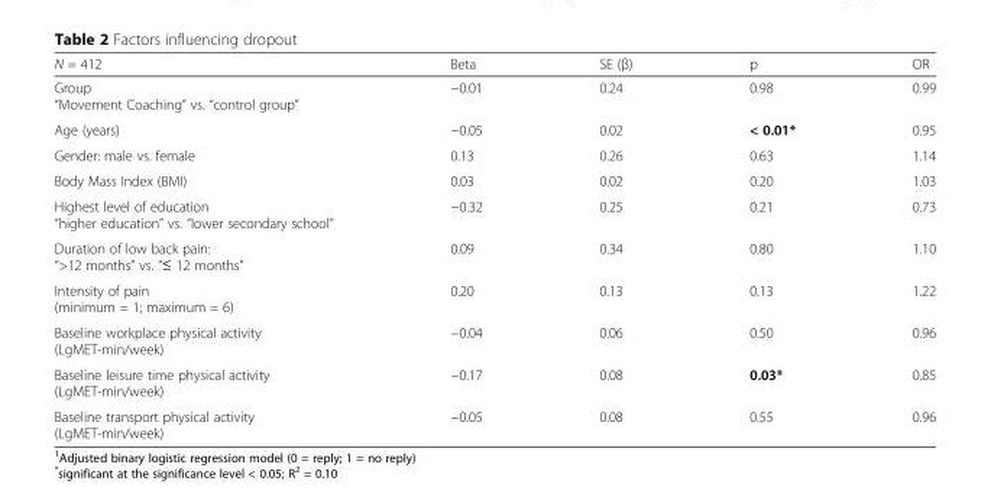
<table><thead><tr><td>N = 412</td><td>Beta</td><td>SE (β)</td><td>p</td><td>OR</td></tr></thead><tbody><tr><td>Group “Movement Coaching” vs. “control group”</td><td>−0.01</td><td>0.24</td><td>0.98</td><td>0.99</td></tr><tr><td>Age (years)</td><td>−0.05</td><td>0.02</td><td>&lt; 0.01*</td><td>0.95</td></tr><tr><td>Gender: male vs. female</td><td>0.13</td><td>0.26</td><td>0.63</td><td>1.14</td></tr><tr><td>Body Mass Index (BMI)</td><td>0.03</td><td>0.02</td><td>0.20</td><td>1.03</td></tr><tr><td>Highest level of education “higher education” vs. “lower secondary school”</td><td>−0.32</td><td>0.25</td><td>0.21</td><td>0.73</td></tr><tr><td>Duration of low back pain: “&gt;12 months” vs. “≤ 12 months”</td><td>0.09</td><td>0.34</td><td>0.80</td><td>1.10</td></tr><tr><td>Intensity of pain (minimum = 1; maximum = 6)</td><td>0.20</td><td>0.13</td><td>0.13</td><td>1.22</td></tr><tr><td>Baseline workplace physical activity (LgMET-min/week)</td><td>−0.04</td><td>0.06</td><td>0.50</td><td>0.96</td></tr><tr><td>Baseline leisure time physical activity (LgMET-min/week)</td><td>−0.17</td><td>0.08</td><td>0.03*</td><td>0.85</td></tr><tr><td>Baseline transport physical activity (LgMET-min/week)</td><td>−0.05</td><td>0.08</td><td>0.55</td><td>0.96</td></tr></tbody></table>